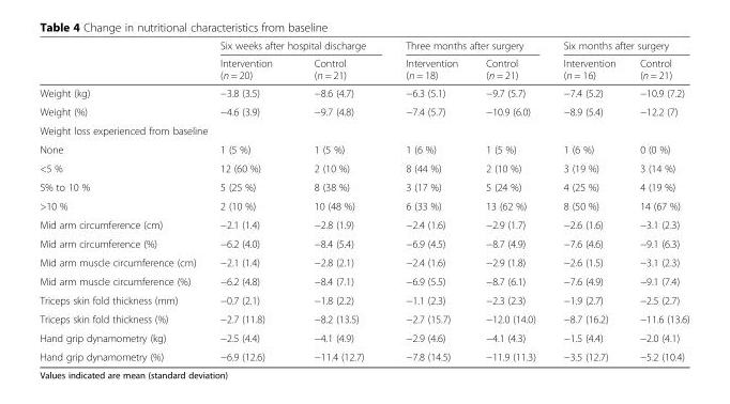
<table><thead><tr><td rowspan="2"></td><td colspan="2">Six weeks after hospital discharge</td><td colspan="2">Three months after surgery</td><td colspan="2">Six months after surgery</td></tr><tr><td>Intervention (n = 20)</td><td>Control (n = 21)</td><td>Intervention (n = 18)</td><td>Control (n = 21)</td><td>Intervention (n = 16)</td><td>Control (n = 21)</td></tr></thead><tbody><tr><td>Weight (kg)</td><td>−3.8 (3.5)</td><td>−8.6 (4.7)</td><td>−6.3 (5.1)</td><td>−9.7 (5.7)</td><td>−7.4 (5.2)</td><td>−10.9 (7.2)</td></tr><tr><td>Weight (%)</td><td>−4.6 (3.9)</td><td>−9.7 (4.8)</td><td>−7.4 (5.7)</td><td>−10.9 (6.0)</td><td>−8.9 (5.4)</td><td>−12.2 (7)</td></tr><tr><td colspan="7">Weight loss experienced from baseline</td></tr><tr><td>None</td><td>1 (5 %)</td><td>1 (5 %)</td><td>1 (6 %)</td><td>1 (5 %)</td><td>1 (6 %)</td><td>0 (0 %)</td></tr><tr><td>&lt;5 %</td><td>12 (60 %)</td><td>2 (10 %)</td><td>8 (44 %)</td><td>2 (10 %)</td><td>3 (19 %)</td><td>3 (14 %)</td></tr><tr><td>5% to 10 %</td><td>5 (25 %)</td><td>8 (38 %)</td><td>3 (17 %)</td><td>5 (24 %)</td><td>4 (25 %)</td><td>4 (19 %)</td></tr><tr><td>&gt;10 %</td><td>2 (10 %)</td><td>10 (48 %)</td><td>6 (33 %)</td><td>13 (62 %)</td><td>8 (50 %)</td><td>14 (67 %)</td></tr><tr><td>Mid arm circumference (cm)</td><td>−2.1 (1.4)</td><td>−2.8 (1.9)</td><td>−2.4 (1.6)</td><td>−2.9 (1.7)</td><td>−2.6 (1.6)</td><td>−3.1 (2.3)</td></tr><tr><td>Mid arm circumference (%)</td><td>−6.2 (4.0)</td><td>−8.4 (5.4)</td><td>−6.9 (4.5)</td><td>−8.7 (4.9)</td><td>−7.6 (4.6)</td><td>−9.1 (6.3)</td></tr><tr><td>Mid arm muscle circumference (cm)</td><td>−2.1 (1.4)</td><td>−2.8 (2.1)</td><td>−2.4 (1.6)</td><td>−2.9 (1.8)</td><td>−2.6 (1.5)</td><td>−3.1 (2.3)</td></tr><tr><td>Mid arm muscle circumference (%)</td><td>−6.2 (4.8)</td><td>−8.4 (7.1)</td><td>−6.9 (5.5)</td><td>−8.7 (6.1)</td><td>−7.6 (4.9)</td><td>−9.1 (7.4)</td></tr><tr><td>Triceps skin fold thickness (mm)</td><td>−0.7 (2.1)</td><td>−1.8 (2.2)</td><td>−1.1 (2.3)</td><td>−2.3 (2.3)</td><td>−1.9 (2.7)</td><td>−2.5 (2.7)</td></tr><tr><td>Triceps skin fold thickness (%)</td><td>−2.7 (11.8)</td><td>−8.2 (13.5)</td><td>−2.7 (15.7)</td><td>−12.0 (14.0)</td><td>−8.7 (16.2)</td><td>−11.6 (13.6)</td></tr><tr><td>Hand grip dynamometry (kg)</td><td>−2.5 (4.4)</td><td>−4.1 (4.9)</td><td>−2.9 (4.6)</td><td>−4.1 (4.3)</td><td>−1.5 (4.4)</td><td>−2.0 (4.1)</td></tr><tr><td>Hand grip dynamometry (%)</td><td>−6.9 (12.6)</td><td>−11.4 (12.7)</td><td>−7.8 (14.5)</td><td>−11.9 (11.3)</td><td>−3.5 (12.7)</td><td>−5.2 (10.4)</td></tr></tbody></table>